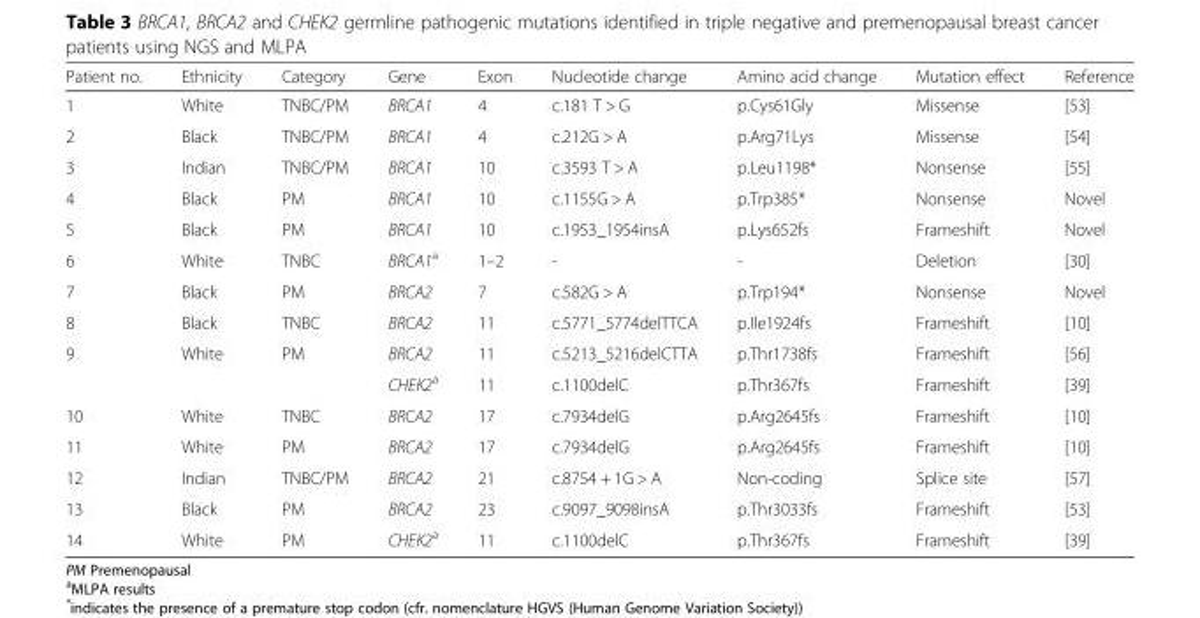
<table><thead><tr><td>Patient no.</td><td>Ethnicity</td><td>Category</td><td>Gene</td><td>Exon</td><td>Nucleotide change</td><td>Amino acid change</td><td>Mutation effect</td><td>Reference</td></tr></thead><tbody><tr><td>1</td><td>White</td><td>TNBC/PM</td><td>BRCA1</td><td>4</td><td>c.181 T &gt; G</td><td>p.Cys61Gly</td><td>Missense</td><td>[53]</td></tr><tr><td>2</td><td>Black</td><td>TNBC/PM</td><td>BRCA1</td><td>4</td><td>c.212G &gt; A</td><td>p.Arg71Lys</td><td>Missense</td><td>[54]</td></tr><tr><td>3</td><td>Indian</td><td>TNBC/PM</td><td>BRCA1</td><td>10</td><td>c.3593 T &gt; A</td><td>p.Leu1198*</td><td>Nonsense</td><td>[55]</td></tr><tr><td>4</td><td>Black</td><td>PM</td><td>BRCA1</td><td>10</td><td>c.1155G &gt; A</td><td>p.Trp385*</td><td>Nonsense</td><td>Novel</td></tr><tr><td>5</td><td>Black</td><td>PM</td><td>BRCA1</td><td>10</td><td>c.1953_1954insA</td><td>p.Lys652fs</td><td>Frameshift</td><td>Novel</td></tr><tr><td>6</td><td>White</td><td>TNBC</td><td>BRCA1<sup>a</sup></td><td>1–2</td><td>-</td><td>-</td><td>Deletion</td><td>[30]</td></tr><tr><td>7</td><td>Black</td><td>PM</td><td>BRCA2</td><td>7</td><td>c.582G &gt; A</td><td>p.Trp194*</td><td>Nonsense</td><td>Novel</td></tr><tr><td>8</td><td>Black</td><td>TNBC</td><td>BRCA2</td><td>11</td><td>c.5771_5774delTTCA</td><td>p.Ile1924fs</td><td>Frameshift</td><td>[10]</td></tr><tr><td rowspan="2">9</td><td rowspan="2">White</td><td rowspan="2">PM</td><td>BRCA2</td><td>11</td><td>c.5213_5216delCTTA</td><td>p.Thr1738fs</td><td>Frameshift</td><td>[56]</td></tr><tr><td>CHEK2<sup>a</sup></td><td>11</td><td>c.1100delC</td><td>p.Thr367fs</td><td>Frameshift</td><td>[39]</td></tr><tr><td>10</td><td>White</td><td>TNBC</td><td>BRCA2</td><td>17</td><td>c.7934delG</td><td>p.Arg2645fs</td><td>Frameshift</td><td>[10]</td></tr><tr><td>11</td><td>White</td><td>PM</td><td>BRCA2</td><td>17</td><td>c.7934delG</td><td>p.Arg2645fs</td><td>Frameshift</td><td>[10]</td></tr><tr><td>12</td><td>Indian</td><td>TNBC/PM</td><td>BRCA2</td><td>21</td><td>c.8754 + 1G &gt; A</td><td>Non-coding</td><td>Splice site</td><td>[57]</td></tr><tr><td>13</td><td>Black</td><td>PM</td><td>BRCA2</td><td>23</td><td>c.9097_9098insA</td><td>p.Thr3033fs</td><td>Frameshift</td><td>[53]</td></tr><tr><td>14</td><td>White</td><td>PM</td><td>CHEK2<sup>a</sup></td><td>11</td><td>c.1100delC</td><td>p.Thr367fs</td><td>Frameshift</td><td>[39]</td></tr></tbody></table>